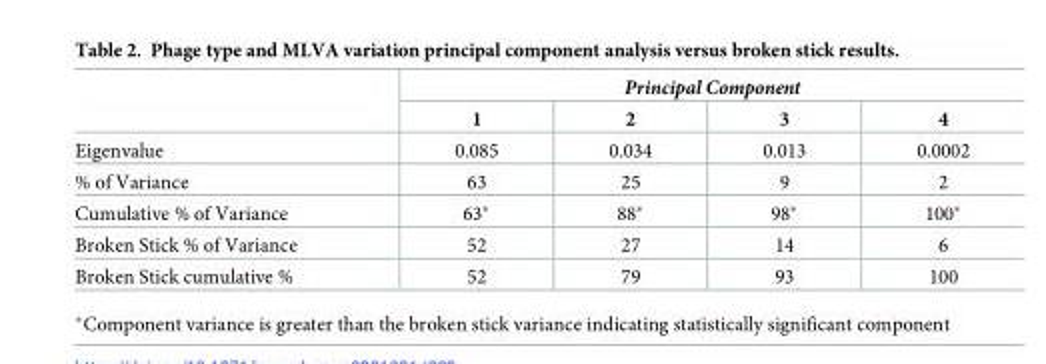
<table><thead><tr><td rowspan="2"></td><td colspan="4">Principal Component</td></tr><tr><td>1</td><td>2</td><td>3</td><td>4</td></tr></thead><tbody><tr><td>Eigenvalue</td><td>0.085</td><td>0.034</td><td>0.013</td><td>0.0002</td></tr><tr><td>% of Variance</td><td>63</td><td>25</td><td>9</td><td>2</td></tr><tr><td>Cumulative % of Variance</td><td>63*</td><td>88*</td><td>98*</td><td>100*</td></tr><tr><td>Broken Stick % of Variance</td><td>52</td><td>27</td><td>14</td><td>6</td></tr><tr><td>Broken Stick cumulative %</td><td>52</td><td>79</td><td>93</td><td>100</td></tr></tbody></table>